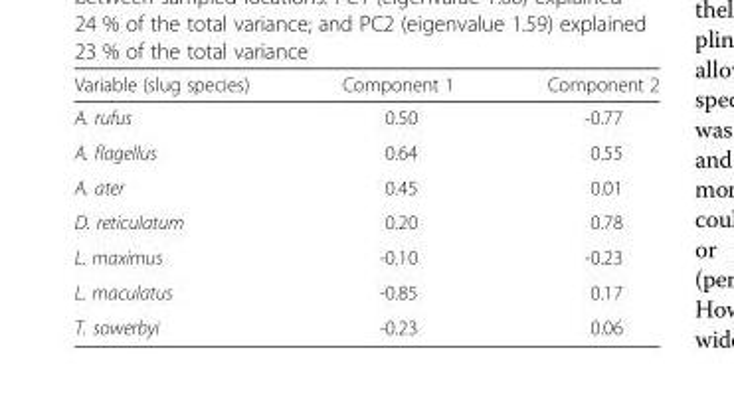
<table><thead><tr><td>Variable (slug species)</td><td>Component 1</td><td>Component 2</td></tr></thead><tbody><tr><td>A. rufus</td><td>0.50</td><td>-0.77</td></tr><tr><td>A. flagellus</td><td>0.64</td><td>0.55</td></tr><tr><td>A. ater</td><td>0.45</td><td>0.01</td></tr><tr><td>D. reticulatum</td><td>0.20</td><td>0.78</td></tr><tr><td>L. maximus</td><td>-0.10</td><td>-0.23</td></tr><tr><td>L. maculatus</td><td>-0.85</td><td>0.17</td></tr><tr><td>T. sowerbyi</td><td>-0.23</td><td>0.06</td></tr></tbody></table>